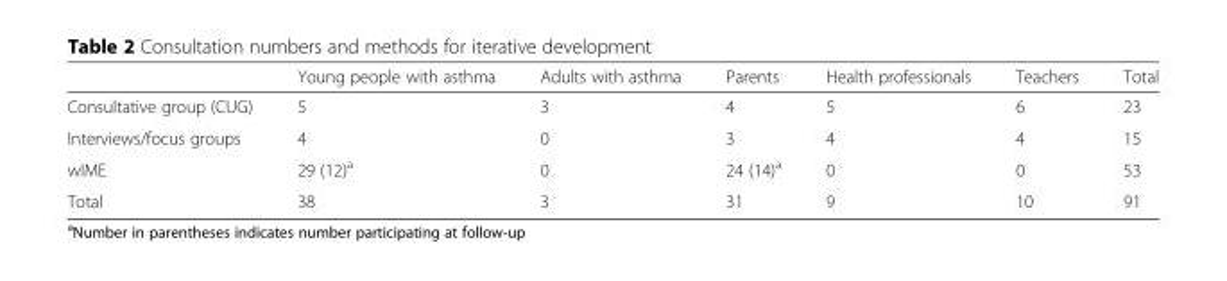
<table><thead><tr><td></td><td>Young people with asthma</td><td>Adults with asthma</td><td>Parents</td><td>Health professionals</td><td>Teachers</td><td>Total</td></tr></thead><tbody><tr><td>Consultative group (CUG)</td><td>5</td><td>3</td><td>4</td><td>5</td><td>6</td><td>23</td></tr><tr><td>Interviews/focus groups</td><td>4</td><td>0</td><td>3</td><td>4</td><td>4</td><td>15</td></tr><tr><td>wIME</td><td>29 (12)<sup>a</sup></td><td>0</td><td>24 (14)<sup>a</sup></td><td>0</td><td>0</td><td>53</td></tr><tr><td>Total</td><td>38</td><td>3</td><td>31</td><td>9</td><td>10</td><td>91</td></tr></tbody></table>